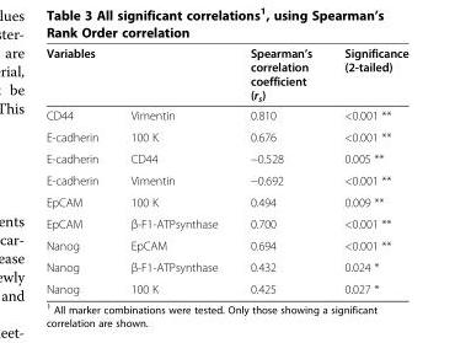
<table><thead><tr><td colspan="2">Variables</td><td rowspan="2">Spearman’s correlation coefficient (r<sub>s</sub>) 0.810</td><td rowspan="2">Significance (2-tailed) &lt;0.001 **</td></tr><tr><td>CD44</td><td>Vimentin</td></tr></thead><tbody><tr><td>E-cadherin</td><td>100 K</td><td>0.676</td><td>&lt;0.001 **</td></tr><tr><td>E-cadherin</td><td>CD44</td><td>−0.528</td><td>0.005 **</td></tr><tr><td>E-cadherin</td><td>Vimentin</td><td>−0.692</td><td>&lt;0.001 **</td></tr><tr><td>EpCAM</td><td>100 K</td><td>0.494</td><td>0.009 **</td></tr><tr><td>EpCAM</td><td>β-F1-ATPsynthase</td><td>0.700</td><td>&lt;0.001 **</td></tr><tr><td>Nanog</td><td>EpCAM</td><td>0.694</td><td>&lt;0.001 **</td></tr><tr><td>Nanog</td><td>β-F1-ATPsynthase</td><td>0.432</td><td>0.024 *</td></tr><tr><td>Nanog</td><td>100 K</td><td>0.425</td><td>0.027 *</td></tr></tbody></table>